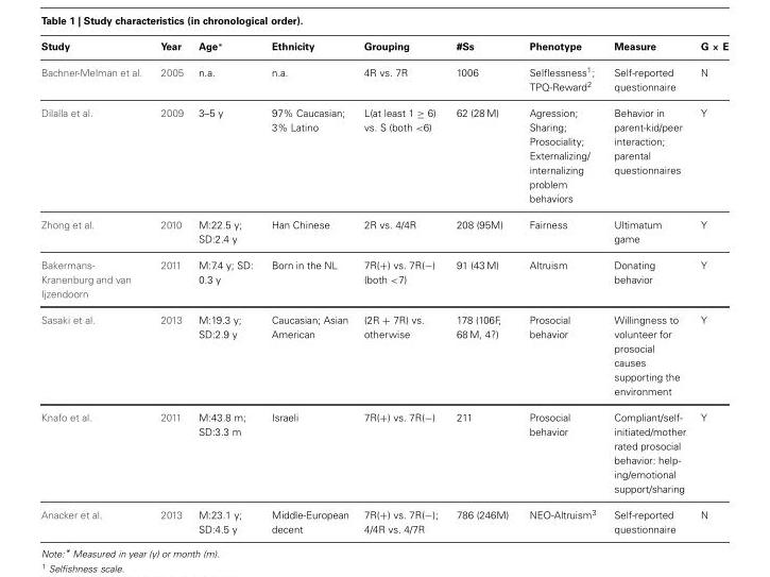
<table><thead><tr><td>Study</td><td>Year</td><td>Age*</td><td>Ethnicity</td><td>Grouping</td><td>#Ss</td><td>Phenotype</td><td>Measure</td><td>G × E</td></tr></thead><tbody><tr><td>Bachner-Melman et al.</td><td>2005</td><td>n.a.</td><td>n.a.</td><td>4R vs. 7R</td><td>1006</td><td>Selflessness<sup>1</sup>; TPQ-Reward<sup>2</sup></td><td>Self-reported questionnaire</td><td>N</td></tr><tr><td>Dilalla et al.</td><td>2009</td><td>3–5 y</td><td>97% Caucasian; 3% Latino</td><td>L(at least 1 ≥ 6) vs. S (both &lt;6)</td><td>62 (28 M)</td><td>Agression; Sharing; Prosociality; Externalizing/ internalizing problem behaviors</td><td>Behavior in parent-kid/peer interaction; parental questionnaires</td><td>Y</td></tr><tr><td>Zhong et al.</td><td>2010</td><td>M:22.5 y; SD:2.4 y</td><td>Han Chinese</td><td>2R vs. 4/4R</td><td>208 (95M)</td><td>Fairness</td><td>Ultimatum game</td><td>Y</td></tr><tr><td>Bakermans- Kranenburg and van Ijzendoorn</td><td>2011</td><td>M:7.4 y; SD: 0.3 y</td><td>Born in the NL</td><td>7R(+) vs. 7R(−) (both &lt;7)</td><td>91 (43 M)</td><td>Altruism</td><td>Donating behavior</td><td>Y</td></tr><tr><td>Sasaki et al.</td><td>2013</td><td>M:19.3 y; SD:2.9 y</td><td>Caucasian; Asian American</td><td>(2R + 7R) vs. otherwise</td><td>178 (106F, 68 M, 4?)</td><td>Prosocial behavior</td><td>Willingness to volunteer for prosocial causes supporting the environment</td><td>Y</td></tr><tr><td>Knafo et al.</td><td>2011</td><td>M:43.8 m; SD:3.3 m</td><td>Israeli</td><td>7R(+) vs. 7R(−)</td><td>211</td><td>Prosocial behavior</td><td>Compliant/self- initiated/mother rated prosocial behavior: help- ing/emotional support/sharing</td><td>Y</td></tr><tr><td>Anacker et al.</td><td>2013</td><td>M:23.1 y; SD:4.5 y</td><td>Middle-European decent</td><td>7R(+) vs. 7R(−); 4/4R vs. 4/7R</td><td>786 (246M)</td><td>NEO-Altruism<sup>3</sup></td><td>Self-reported questionnaire</td><td>N</td></tr></tbody></table>